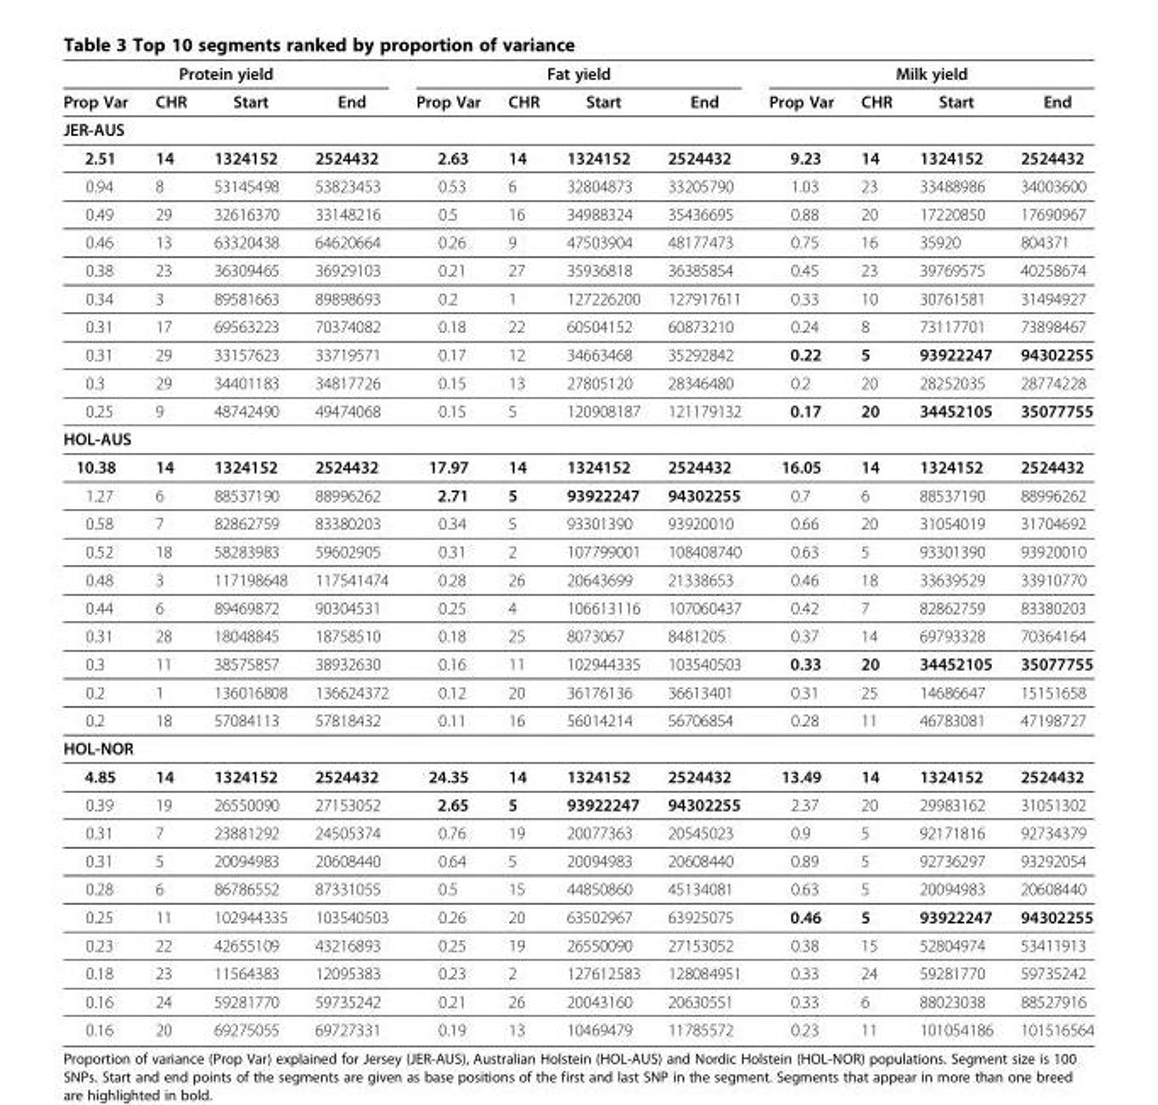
<table><thead><tr><td colspan="4">Protein yield</td><td colspan="4">Fat yield</td><td colspan="4">Milk yield</td></tr><tr><td>Prop Var</td><td>CHR</td><td>Start</td><td>End</td><td>Prop Var</td><td>CHR</td><td>Start</td><td>End</td><td>Prop Var</td><td>CHR</td><td>Start</td><td>End</td></tr></thead><tbody><tr><td colspan="12">JER-AUS</td></tr><tr><td>2.51</td><td>14</td><td>1324152</td><td>2524432</td><td>2.63</td><td>14</td><td>1324152</td><td>2524432</td><td>9.23</td><td>14</td><td>1324152</td><td>2524432</td></tr><tr><td>0.94</td><td>8</td><td>53145498</td><td>53823453</td><td>0.53</td><td>6</td><td>32804873</td><td>33205790</td><td>1.03</td><td>23</td><td>33488986</td><td>34003600</td></tr><tr><td>0.49</td><td>29</td><td>32616370</td><td>33148216</td><td>0.5</td><td>16</td><td>34988324</td><td>35436695</td><td>0.88</td><td>20</td><td>17220850</td><td>17690967</td></tr><tr><td>0.46</td><td>13</td><td>63320438</td><td>64620664</td><td>0.26</td><td>9</td><td>47503904</td><td>48177473</td><td>0.75</td><td>16</td><td>35920</td><td>804371</td></tr><tr><td>0.38</td><td>23</td><td>36309465</td><td>36929103</td><td>0.21</td><td>27</td><td>35936818</td><td>36385854</td><td>0.45</td><td>23</td><td>39769575</td><td>40258674</td></tr><tr><td>0.34</td><td>3</td><td>89581663</td><td>89898693</td><td>0.2</td><td>1</td><td>127226200</td><td>127917611</td><td>0.33</td><td>10</td><td>30761581</td><td>31494927</td></tr><tr><td>0.31</td><td>17</td><td>69563223</td><td>70374082</td><td>0.18</td><td>22</td><td>60504152</td><td>60873210</td><td>0.24</td><td>8</td><td>73117701</td><td>73898467</td></tr><tr><td>0.31</td><td>29</td><td>33157623</td><td>33719571</td><td>0.17</td><td>12</td><td>34663468</td><td>35292842</td><td>0.22</td><td>5</td><td>93922247</td><td>94302255</td></tr><tr><td>0.3</td><td>29</td><td>34401183</td><td>34817726</td><td>0.15</td><td>13</td><td>27805120</td><td>28346480</td><td>0.2</td><td>20</td><td>28252035</td><td>28774228</td></tr><tr><td>0.25</td><td>9</td><td>48742490</td><td>49474068</td><td>0.15</td><td>5</td><td>120908187</td><td>121179132</td><td>0.17</td><td>20</td><td>34452105</td><td>35077755</td></tr><tr><td colspan="12">HOL-AUS</td></tr><tr><td>10.38</td><td>14</td><td>1324152</td><td>2524432</td><td>17.97</td><td>14</td><td>1324152</td><td>2524432</td><td>16.05</td><td>14</td><td>1324152</td><td>2524432</td></tr><tr><td>1.27</td><td>6</td><td>88537190</td><td>88996262</td><td>2.71</td><td>5</td><td>93922247</td><td>94302255</td><td>0.7</td><td>6</td><td>88537190</td><td>88996262</td></tr><tr><td>0.58</td><td>7</td><td>82862759</td><td>83380203</td><td>0.34</td><td>5</td><td>93301390</td><td>93920010</td><td>0.66</td><td>20</td><td>31054019</td><td>31704692</td></tr><tr><td>0.52</td><td>18</td><td>58283983</td><td>59602905</td><td>0.31</td><td>2</td><td>107799001</td><td>108408740</td><td>0.63</td><td>5</td><td>93301390</td><td>93920010</td></tr><tr><td>0.48</td><td>3</td><td>117198648</td><td>117541474</td><td>0.28</td><td>26</td><td>20643699</td><td>21338653</td><td>0.46</td><td>18</td><td>33639529</td><td>33910770</td></tr><tr><td>0.44</td><td>6</td><td>89469872</td><td>90304531</td><td>0.25</td><td>4</td><td>106613116</td><td>107060437</td><td>0.42</td><td>7</td><td>82862759</td><td>83380203</td></tr><tr><td>0.31</td><td>28</td><td>18048845</td><td>18758510</td><td>0.18</td><td>25</td><td>8073067</td><td>8481205</td><td>0.37</td><td>14</td><td>69793328</td><td>70364164</td></tr><tr><td>0.3</td><td>11</td><td>38575857</td><td>38932630</td><td>0.16</td><td>11</td><td>102944335</td><td>103540503</td><td>0.33</td><td>20</td><td>34452105</td><td>35077755</td></tr><tr><td>0.2</td><td>1</td><td>136016808</td><td>136624372</td><td>0.12</td><td>20</td><td>36176136</td><td>36613401</td><td>0.31</td><td>25</td><td>14686647</td><td>15151658</td></tr><tr><td>0.2</td><td>18</td><td>57084113</td><td>57818432</td><td>0.11</td><td>16</td><td>56014214</td><td>56706854</td><td>0.28</td><td>11</td><td>46783081</td><td>47198727</td></tr><tr><td colspan="12">HOL-NOR</td></tr><tr><td>4.85</td><td>14</td><td>1324152</td><td>2524432</td><td>24.35</td><td>14</td><td>1324152</td><td>2524432</td><td>13.49</td><td>14</td><td>1324152</td><td>2524432</td></tr><tr><td>0.39</td><td>19</td><td>26550090</td><td>27153052</td><td>2.65</td><td>5</td><td>93922247</td><td>94302255</td><td>2.37</td><td>20</td><td>29983162</td><td>31051302</td></tr><tr><td>0.31</td><td>7</td><td>23881292</td><td>24505374</td><td>0.76</td><td>19</td><td>20077363</td><td>20545023</td><td>0.9</td><td>5</td><td>92171816</td><td>92734379</td></tr><tr><td>0.31</td><td>5</td><td>20094983</td><td>20608440</td><td>0.64</td><td>5</td><td>20094983</td><td>20608440</td><td>0.89</td><td>5</td><td>92736297</td><td>93292054</td></tr><tr><td>0.28</td><td>6</td><td>86786552</td><td>87331055</td><td>0.5</td><td>15</td><td>44850860</td><td>45134081</td><td>0.63</td><td>5</td><td>20094983</td><td>20608440</td></tr><tr><td>0.25</td><td>11</td><td>102944335</td><td>103540503</td><td>0.26</td><td>20</td><td>63502967</td><td>63925075</td><td>0.46</td><td>5</td><td>93922247</td><td>94302255</td></tr><tr><td>0.23</td><td>22</td><td>42655109</td><td>43216893</td><td>0.25</td><td>19</td><td>26550090</td><td>27153052</td><td>0.38</td><td>15</td><td>52804974</td><td>53411913</td></tr><tr><td>0.18</td><td>23</td><td>11564383</td><td>12095383</td><td>0.23</td><td>2</td><td>127612583</td><td>128084951</td><td>0.33</td><td>24</td><td>59281770</td><td>59735242</td></tr><tr><td>0.16</td><td>24</td><td>59281770</td><td>59735242</td><td>0.21</td><td>26</td><td>20043160</td><td>20630551</td><td>0.33</td><td>6</td><td>88023038</td><td>88527916</td></tr><tr><td>0.16</td><td>20</td><td>69275055</td><td>69727331</td><td>0.19</td><td>13</td><td>10469479</td><td>11785572</td><td>0.23</td><td>11</td><td>101054186</td><td>101516564</td></tr></tbody></table>